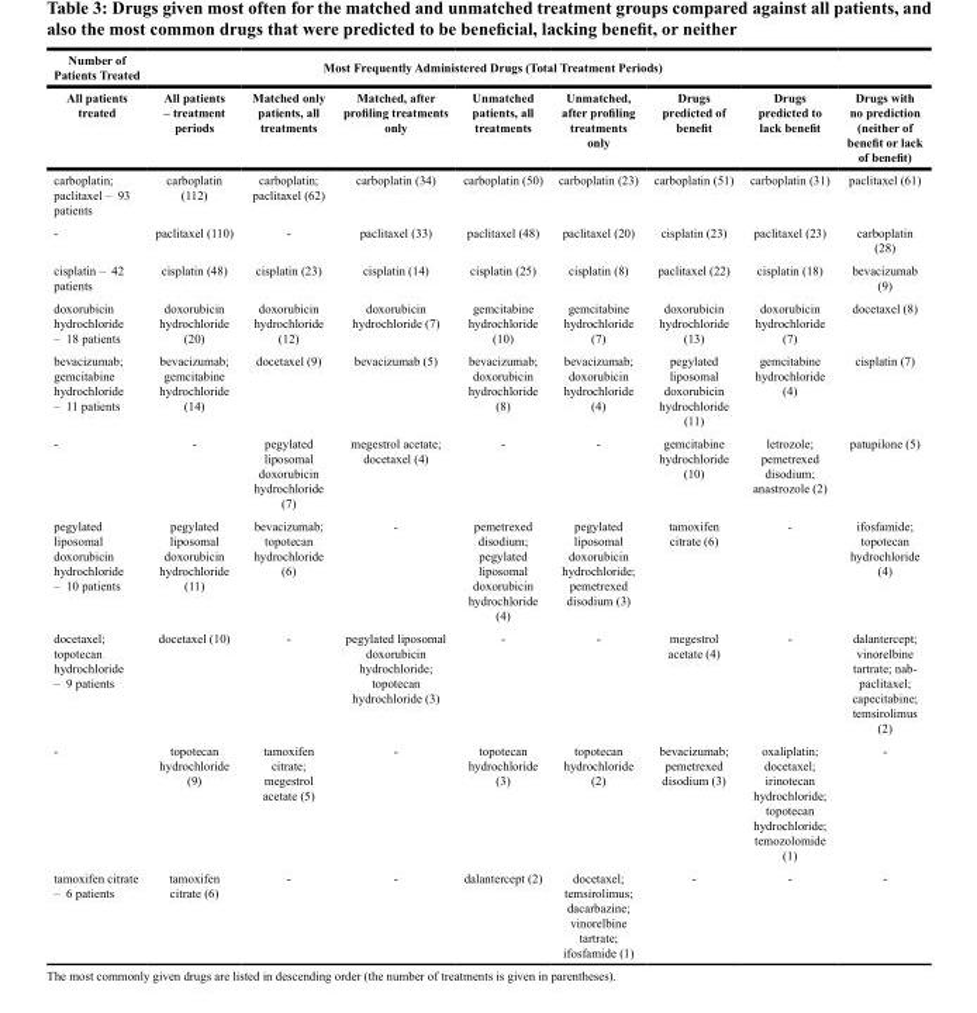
<table><thead><tr><td rowspan="2">Number of Patients Treated All patients treated</td><td colspan="8">Most Frequently Administered Drugs (Total Treatment Periods)</td></tr><tr><td>All patients – treatment periods</td><td>Matched only patients, all treatments</td><td>Matched, after profiling treatments only</td><td>Unmatched patients, all treatments</td><td>Unmatched, after profiling treatments only</td><td>Drugs predicted of benefit</td><td>Drugs predicted to lack benefit</td><td>Drugs with no prediction (neither of benefit or lack of benefit)</td></tr></thead><tbody><tr><td>carboplatin; paclitaxel – 93 patients</td><td>carboplatin (112)</td><td>carboplatin; paclitaxel (62)</td><td>carboplatin (34)</td><td>carboplatin (50)</td><td>carboplatin (23)</td><td>carboplatin (51)</td><td>carboplatin (31)</td><td>paclitaxel (61)</td></tr><tr><td>-</td><td>paclitaxel (110)</td><td>-</td><td>paclitaxel (33)</td><td>paclitaxel (48)</td><td>paclitaxel (20)</td><td>cisplatin (23)</td><td>paclitaxel (23)</td><td>carboplatin (28)</td></tr><tr><td>cisplatin – 42 patients</td><td>cisplatin (48)</td><td>cisplatin (23)</td><td>cisplatin (14)</td><td>cisplatin (25)</td><td>cisplatin (8)</td><td>paclitaxel (22)</td><td>cisplatin (18)</td><td>bevacizumab (9)</td></tr><tr><td>doxorubicin hydrochloride – 18 patients</td><td>doxorubicin hydrochloride (20)</td><td>doxorubicin hydrochloride (12)</td><td>doxorubicin hydrochloride (7)</td><td>gemcitabine hydrochloride (10)</td><td>gemcitabine hydrochloride (7)</td><td>doxorubicin hydrochloride (13)</td><td>doxorubicin hydrochloride (7)</td><td>docetaxel (8)</td></tr><tr><td>bevacizumab; gemcitabine hydrochloride – 11 patients</td><td>bevacizumab; gemcitabine hydrochloride (14)</td><td>docetaxel (9)</td><td>bevacizumab (5)</td><td>bevacizumab; doxorubicin hydrochloride (8)</td><td>bevacizumab; doxorubicin hydrochloride (4)</td><td>pegylated liposomal doxorubicin hydrochloride (11)</td><td>gemcitabine hydrochloride (4)</td><td>cisplatin (7)</td></tr><tr><td>-</td><td>-</td><td>pegylated liposomal doxorubicin hydrochloride (7)</td><td>megestrol acetate; docetaxel (4)</td><td>-</td><td>-</td><td>gemcitabine hydrochloride (10)</td><td>letrozole; pemetrexed disodium; anastrozole (2)</td><td>patupilone (5)</td></tr><tr><td>pegylated liposomal doxorubicin hydrochloride – 10 patients</td><td>pegylated liposomal doxorubicin hydrochloride (11)</td><td>bevacizumab; topotecan hydrochloride (6)</td><td>-</td><td>pemetrexed disodium; pegylated liposomal doxorubicin hydrochloride (4)</td><td>pegylated liposomal doxorubicin hydrochloride; pemetrexed disodium (3)</td><td>tamoxifen citrate (6)</td><td>-</td><td>ifosfamide; topotecan hydrochloride (4)</td></tr><tr><td>docetaxel; topotecan hydrochloride – 9 patients</td><td>docetaxel (10)</td><td>-</td><td>pegylated liposomal doxorubicin hydrochloride; topotecan hydrochloride (3)</td><td>-</td><td>-</td><td>megestrol acetate (4)</td><td>-</td><td>dalantercept; vinorelbine tartrate; nab- paclitaxel; capecitabine; temsirolimus (2)</td></tr><tr><td>-</td><td>topotecan hydrochloride (9)</td><td>tamoxifen citrate; megestrol acetate (5)</td><td>-</td><td>topotecan hydrochloride (3)</td><td>topotecan hydrochloride (2)</td><td>bevacizumab; pemetrexed disodium (3)</td><td>oxaliplatin; docetaxel; irinotecan hydrochloride; topotecan hydrochloride; temozolomide (1)</td><td>-</td></tr><tr><td>tamoxifen citrate – 6 patients</td><td>tamoxifen citrate (6)</td><td>-</td><td>-</td><td>dalantercept (2)</td><td>docetaxel; temsirolimus; dacarbazine; vinorelbine tartrate; ifosfamide (1)</td><td>-</td><td>-</td><td>-</td></tr></tbody></table>